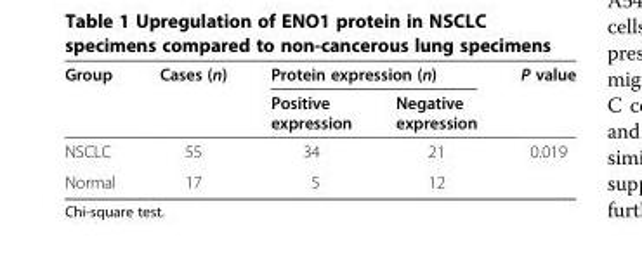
<table><thead><tr><td rowspan="2">Group</td><td rowspan="2">Cases (n)</td><td colspan="2">Protein expression (n)</td><td rowspan="2">P value</td></tr><tr><td>Positive expression</td><td>Negative expression</td></tr></thead><tbody><tr><td>NSCLC</td><td>55</td><td>34</td><td>21</td><td rowspan="2">0.019</td></tr><tr><td>Normal</td><td>17</td><td>5</td><td>12</td></tr></tbody></table>